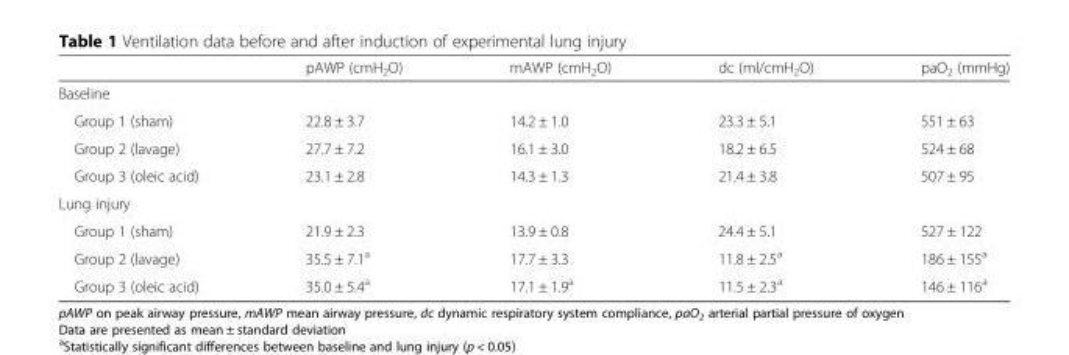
<table><thead><tr><td></td><td>pAWP (cmH<sub>2</sub>O)</td><td>mAWP (cmH<sub>2</sub>O)</td><td>dc (ml/cmH<sub>2</sub>O)</td><td>paO<sub>2</sub> (mmHg)</td></tr></thead><tbody><tr><td colspan="5">Baseline</td></tr><tr><td>Group 1 (sham)</td><td>22.8 ± 3.7</td><td>14.2 ± 1.0</td><td>23.3 ± 5.1</td><td>551 ± 63</td></tr><tr><td>Group 2 (lavage)</td><td>27.7 ± 7.2</td><td>16.1 ± 3.0</td><td>18.2 ± 6.5</td><td>524 ± 68</td></tr><tr><td>Group 3 (oleic acid)</td><td>23.1 ± 2.8</td><td>14.3 ± 1.3</td><td>21.4 ± 3.8</td><td>507 ± 95</td></tr><tr><td colspan="5">Lung injury</td></tr><tr><td>Group 1 (sham)</td><td>21.9 ± 2.3</td><td>13.9 ± 0.8</td><td>24.4 ± 5.1</td><td>527 ± 122</td></tr><tr><td>Group 2 (lavage)</td><td>35.5 ± 7.1<sup>a</sup></td><td>17.7 ± 3.3</td><td>11.8 ± 2.5<sup>a</sup></td><td>186 ± 155<sup>a</sup></td></tr><tr><td>Group 3 (oleic acid)</td><td>35.0 ± 5.4<sup>a</sup></td><td>17.1 ± 1.9<sup>a</sup></td><td>11.5 ± 2.3<sup>a</sup></td><td>146 ± 116<sup>a</sup></td></tr></tbody></table>